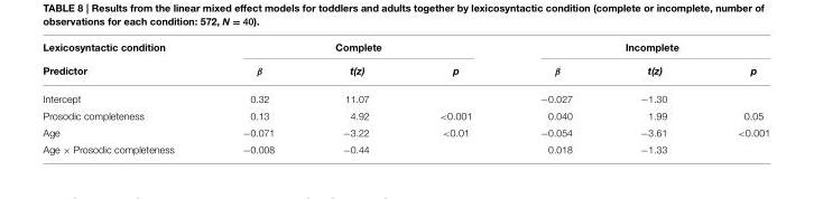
<table><thead><tr><td rowspan="2">Lexicosyntactic condition Predictor</td><td colspan="3">Complete</td><td colspan="3">Incomplete</td></tr><tr><td>β</td><td>t(z)</td><td>p</td><td>β</td><td>t(z)</td><td>p</td></tr></thead><tbody><tr><td>Intercept</td><td>0.32</td><td>11.07</td><td></td><td>−0.027</td><td>−1.30</td><td></td></tr><tr><td>Prosodic completeness</td><td>0.13</td><td>4.92</td><td>&lt;0.001</td><td>0.040</td><td>1.99</td><td>0.05</td></tr><tr><td>Age</td><td>−0.071</td><td>−3.22</td><td>&lt;0.01</td><td>−0.054</td><td>−3.61</td><td>&lt;0.001</td></tr><tr><td>Age × Prosodic completeness</td><td>−0.008</td><td>−0.44</td><td></td><td>0.018</td><td>−1.33</td><td></td></tr></tbody></table>